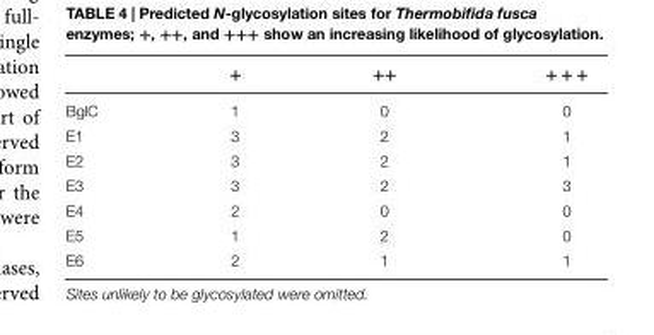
<table><thead><tr><td></td><td>+</td><td>++</td><td>+ + +</td></tr></thead><tbody><tr><td>BglC</td><td>1</td><td>0</td><td>0</td></tr><tr><td>E1</td><td>3</td><td>2</td><td>1</td></tr><tr><td>E2</td><td>3</td><td>2</td><td>1</td></tr><tr><td>E3</td><td>3</td><td>2</td><td>3</td></tr><tr><td>E4</td><td>2</td><td>0</td><td>0</td></tr><tr><td>E5</td><td>1</td><td>2</td><td>0</td></tr><tr><td>E6</td><td>2</td><td>1</td><td>1</td></tr></tbody></table>